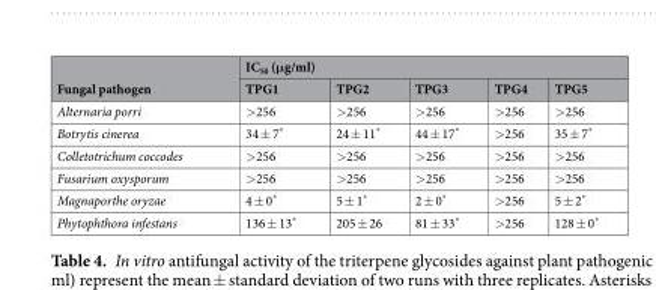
<table><thead><tr><td rowspan="2">Fungal pathogen</td><td colspan="5">IC<sub>50</sub> (μg/ml)</td></tr><tr><td>TPG1</td><td>TPG2</td><td>TPG3</td><td>TPG4</td><td>TPG5</td></tr></thead><tbody><tr><td>Alternaria porri</td><td>&gt;256</td><td>&gt;256</td><td>&gt;256</td><td>&gt;256</td><td>&gt;256</td></tr><tr><td>Botrytis cinerea</td><td>34 ± 7*</td><td>24 ± 11*</td><td>44 ± 17*</td><td>&gt;256</td><td>35 ± 7*</td></tr><tr><td>Colletotrichum coccodes</td><td>&gt;256</td><td>&gt;256</td><td>&gt;256</td><td>&gt;256</td><td>&gt;256</td></tr><tr><td>Fusarium oxysporum</td><td>&gt;256</td><td>&gt;256</td><td>&gt;256</td><td>&gt;256</td><td>&gt;256</td></tr><tr><td>Magnaporthe oryzae</td><td>4 ± 0*</td><td>5 ± 1*</td><td>2 ± 0*</td><td>&gt;256</td><td>5 ± 2*</td></tr><tr><td>Phytophthora infestans</td><td>136 ± 13*</td><td>205 ± 26</td><td>81 ± 33*</td><td>&gt;256</td><td>128 ± 0*</td></tr></tbody></table>